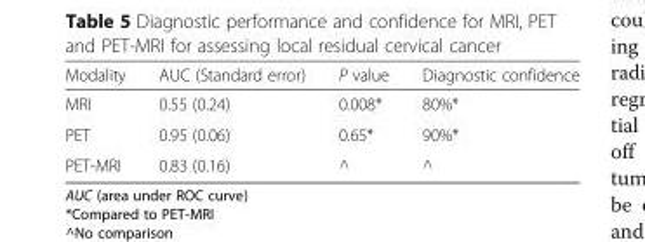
<table><thead><tr><td>Modality</td><td>AUC (Standard error)</td><td>P value</td><td>Diagnostic confidence</td></tr></thead><tbody><tr><td>MRI</td><td>0.55 (0.24)</td><td>0.008*</td><td>80%*</td></tr><tr><td>PET</td><td>0.95 (0.06)</td><td>0.65*</td><td>90%*</td></tr><tr><td>PET-MRI</td><td>0.83 (0.16)</td><td>^</td><td>^</td></tr></tbody></table>